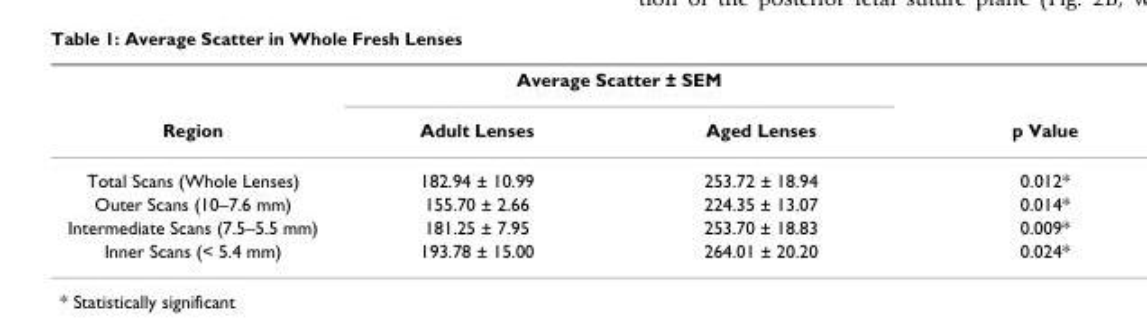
<table><thead><tr><td rowspan="2">Region</td><td colspan="2">Average Scatter ± SEM</td><td rowspan="2">p Value</td></tr><tr><td>Adult Lenses</td><td>Aged Lenses</td></tr></thead><tbody><tr><td>Total Scans (Whole Lenses)</td><td>182.94 ± 10.99</td><td>253.72 ± 18.94</td><td>0.012*</td></tr><tr><td>Outer Scans (10–7.6 mm)</td><td>155.70 ± 2.66</td><td>224.35 ± 13.07</td><td>0.014*</td></tr><tr><td>Intermediate Scans (7.5–5.5 mm)</td><td>181.25 ± 7.95</td><td>253.70 ± 18.83</td><td>0.009*</td></tr><tr><td>Inner Scans (&lt; 5.4 mm)</td><td>193.78 ± 15.00</td><td>264.01 ± 20.20</td><td>0.024*</td></tr></tbody></table>